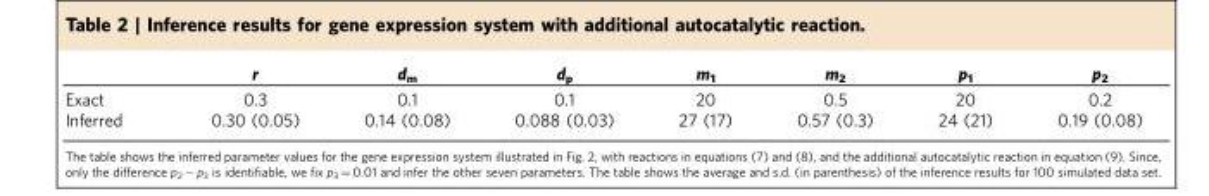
<table><thead><tr><td></td><td>r</td><td>d<sub>m</sub></td><td>d<sub>p</sub></td><td>m<sub>1</sub></td><td>m<sub>2</sub></td><td>p<sub>1</sub></td><td>p<sub>2</sub></td></tr></thead><tbody><tr><td>Exact</td><td>0.3</td><td>0.1</td><td>0.1</td><td>20</td><td>0.5</td><td>20</td><td>0.2</td></tr><tr><td>Inferred</td><td>0.30 (0.05)</td><td>0.14 (0.08)</td><td>0.088 (0.03)</td><td>27 (17)</td><td>0.57 (0.3)</td><td>24 (21)</td><td>0.19 (0.08)</td></tr></tbody></table>